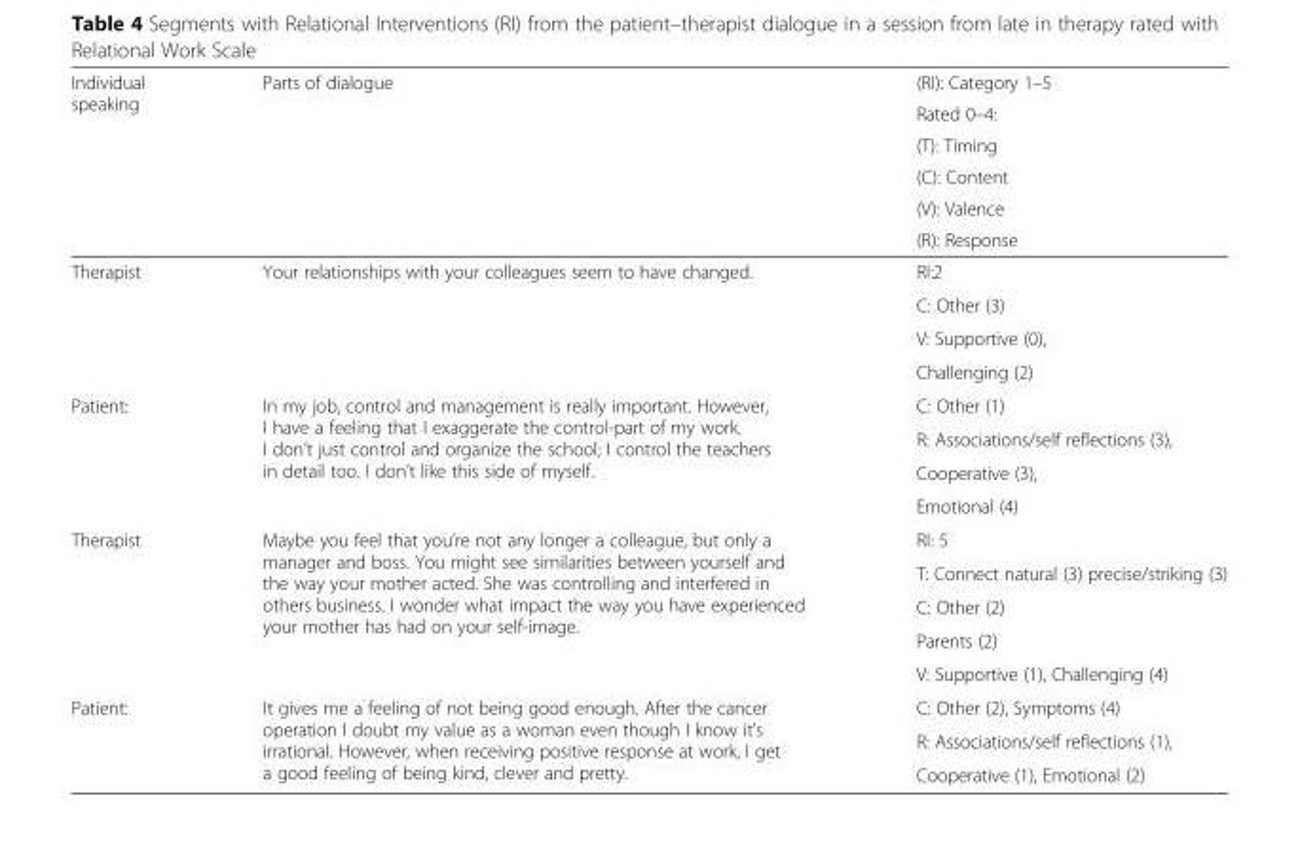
<table><thead><tr><td rowspan="6">Individual speaking</td><td rowspan="6">Parts of dialogue</td><td rowspan="6">(RI): Category 1–5 Rated 0–4: (T): Timing (C): Content (V): Valence (R): Response</td></tr><tr></tr><tr></tr><tr></tr><tr></tr><tr></tr></thead><tbody><tr><td rowspan="4">Therapist</td><td rowspan="4">Your relationships with your colleagues seem to have changed.</td><td>RI:2</td></tr><tr><td>C: Other (3)</td></tr><tr><td>V: Supportive (0),</td></tr><tr><td>Challenging (2)</td></tr><tr><td rowspan="4">Patient:</td><td rowspan="4">In my job, control and management is really important. However, I have a feeling that I exaggerate the control-part of my work. I don’t just control and organize the school; I control the teachers in detail too. I don’t like this side of myself.</td><td>C: Other (1)</td></tr><tr><td>R: Associations/self reflections (3),</td></tr><tr><td>Cooperative (3),</td></tr><tr><td>Emotional (4)</td></tr><tr><td rowspan="5">Therapist</td><td rowspan="5">Maybe you feel that you’re not any longer a colleague, but only a manager and boss. You might see similarities between yourself and the way your mother acted. She was controlling and interfered in others business. I wonder what impact the way you have experienced your mother has had on your self-image.</td><td>RI: 5</td></tr><tr><td>T: Connect natural (3) precise/striking (3)</td></tr><tr><td>C: Other (2)</td></tr><tr><td>Parents (2)</td></tr><tr><td>V: Supportive (1), Challenging (4)</td></tr><tr><td rowspan="3">Patient:</td><td rowspan="3">It gives me a feeling of not being good enough. After the cancer operation I doubt my value as a woman even though I know it’s irrational. However, when receiving positive response at work, I get a good feeling of being kind, clever and pretty.</td><td>C: Other (2), Symptoms (4)</td></tr><tr><td>R: Associations/self reflections (1),</td></tr><tr><td>Cooperative (1), Emotional (2)</td></tr></tbody></table>